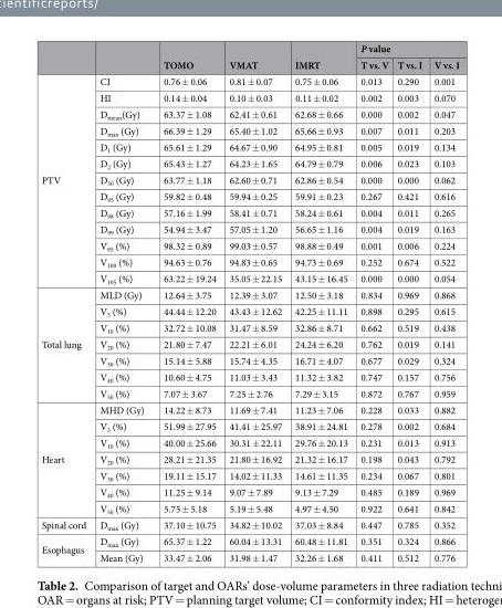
<table><thead><tr><td rowspan="2"></td><td rowspan="2"></td><td rowspan="2">TOMO</td><td rowspan="2">VMAT</td><td rowspan="2">IMRT</td><td colspan="3">P value</td></tr><tr><td>T vs. V</td><td>T vs. I</td><td>V vs. I</td></tr></thead><tbody><tr><td rowspan="13">PTV</td><td>CI</td><td>0.76 ± 0.06</td><td>0.81 ± 0.07</td><td>0.75 ± 0.06</td><td>0.013</td><td>0.290</td><td>0.001</td></tr><tr><td>HI</td><td>0.14 ± 0.04</td><td>0.10 ± 0.03</td><td>0.11 ± 0.02</td><td>0.002</td><td>0.003</td><td>0.070</td></tr><tr><td>D<sub>mean</sub>(Gy)</td><td>63.37 ± 1.08</td><td>62.41 ± 0.61</td><td>62.68 ± 0.66</td><td>0.000</td><td>0.002</td><td>0.047</td></tr><tr><td>D<sub>max</sub> (Gy)</td><td>66.39 ± 1.29</td><td>65.40 ± 1.02</td><td>65.66 ± 0.93</td><td>0.007</td><td>0.011</td><td>0.203</td></tr><tr><td>D<sub>1</sub> (Gy)</td><td>65.61 ± 1.29</td><td>64.67 ± 0.90</td><td>64.95 ± 0.81</td><td>0.005</td><td>0.019</td><td>0.134</td></tr><tr><td>D<sub>2</sub> (Gy)</td><td>65.43 ± 1.27</td><td>64.23 ± 1.65</td><td>64.79 ± 0.79</td><td>0.006</td><td>0.023</td><td>0.103</td></tr><tr><td>D<sub>50</sub> (Gy)</td><td>63.77 ± 1.18</td><td>62.60 ± 0.71</td><td>62.86 ± 0.54</td><td>0.000</td><td>0.000</td><td>0.062</td></tr><tr><td>D<sub>95</sub> (Gy)</td><td>59.82 ± 0.48</td><td>59.94 ± 0.25</td><td>59.91 ± 0.23</td><td>0.267</td><td>0.421</td><td>0.616</td></tr><tr><td>D<sub>98</sub> (Gy)</td><td>57.16 ± 1.99</td><td>58.41 ± 0.71</td><td>58.24 ± 0.61</td><td>0.004</td><td>0.011</td><td>0.265</td></tr><tr><td>D<sub>99</sub> (Gy)</td><td>54.94 ± 3.47</td><td>57.05 ± 1.20</td><td>56.65 ± 1.16</td><td>0.004</td><td>0.019</td><td>0.163</td></tr><tr><td>V<sub>95</sub> (%)</td><td>98.32 ± 0.89</td><td>99.03 ± 0.57</td><td>98.88 ± 0.49</td><td>0.001</td><td>0.006</td><td>0.224</td></tr><tr><td>V<sub>100</sub> (%)</td><td>94.63 ± 0.76</td><td>94.83 ± 0.65</td><td>94.73 ± 0.69</td><td>0.252</td><td>0.674</td><td>0.522</td></tr><tr><td>V<sub>105</sub> (%)</td><td>63.22 ± 19.24</td><td>35.05 ± 22.15</td><td>43.15 ± 16.45</td><td>0.000</td><td>0.000</td><td>0.054</td></tr><tr><td rowspan="7">Total lung</td><td>MLD (Gy)</td><td>12.64 ± 3.75</td><td>12.39 ± 3.07</td><td>12.50 ± 3.18</td><td>0.834</td><td>0.969</td><td>0.868</td></tr><tr><td>V<sub>5</sub> (%)</td><td>44.44 ± 12.20</td><td>43.43 ± 12.62</td><td>42.25 ± 11.11</td><td>0.898</td><td>0.295</td><td>0.615</td></tr><tr><td>V<sub>10</sub> (%)</td><td>32.72 ± 10.08</td><td>31.47 ± 8.59</td><td>32.86 ± 8.71</td><td>0.662</td><td>0.519</td><td>0.438</td></tr><tr><td>V<sub>20</sub> (%)</td><td>21.80 ± 7.47</td><td>22.21 ± 6.01</td><td>24.24 ± 6.20</td><td>0.762</td><td>0.019</td><td>0.141</td></tr><tr><td>V<sub>30</sub> (%)</td><td>15.14 ± 5.88</td><td>15.74 ± 4.35</td><td>16.71 ± 4.07</td><td>0.677</td><td>0.029</td><td>0.324</td></tr><tr><td>V<sub>40</sub> (%)</td><td>10.60 ± 4.75</td><td>11.03 ± 3.43</td><td>11.32 ± 3.82</td><td>0.747</td><td>0.157</td><td>0.756</td></tr><tr><td>V<sub>50</sub> (%)</td><td>7.07 ± 3.67</td><td>7.25 ± 2.76</td><td>7.29 ± 3.15</td><td>0.872</td><td>0.767</td><td>0.959</td></tr><tr><td rowspan="7">Heart</td><td>MHD (Gy)</td><td>14.22 ± 8.73</td><td>11.69 ± 7.41</td><td>11.23 ± 7.06</td><td>0.228</td><td>0.033</td><td>0.882</td></tr><tr><td>V<sub>5</sub> (%)</td><td>51.99 ± 27.95</td><td>41.41 ± 25.97</td><td>38.91 ± 24.81</td><td>0.278</td><td>0.002</td><td>0.684</td></tr><tr><td>V<sub>10</sub> (%)</td><td>40.00 ± 25.66</td><td>30.31 ± 22.11</td><td>29.76 ± 20.13</td><td>0.231</td><td>0.013</td><td>0.913</td></tr><tr><td>V<sub>20</sub> (%)</td><td>28.21 ± 21.35</td><td>21.80 ± 16.92</td><td>21.32 ± 16.17</td><td>0.198</td><td>0.043</td><td>0.792</td></tr><tr><td>V<sub>30</sub> (%)</td><td>19.11 ± 15.17</td><td>14.02 ± 11.33</td><td>14.61 ± 11.35</td><td>0.234</td><td>0.067</td><td>0.801</td></tr><tr><td>V<sub>40</sub> (%)</td><td>11.25 ± 9.14</td><td>9.07 ± 7.89</td><td>9.13 ± 7.29</td><td>0.485</td><td>0.189</td><td>0.969</td></tr><tr><td>V<sub>50</sub> (%)</td><td>5.75 ± 5.18</td><td>5.19 ± 5.48</td><td>4.97 ± 4.50</td><td>0.922</td><td>0.641</td><td>0.842</td></tr><tr><td>Spinal cord</td><td>D<sub>max</sub> (Gy)</td><td>37.10 ± 10.75</td><td>34.82 ± 10.02</td><td>37.03 ± 8.84</td><td>0.447</td><td>0.785</td><td>0.352</td></tr><tr><td rowspan="2">Esophagus</td><td>D<sub>max</sub> (Gy)</td><td>65.37 ± 1.22</td><td>60.04 ± 13.31</td><td>60.48 ± 11.81</td><td>0.351</td><td>0.324</td><td>0.866</td></tr><tr><td>Mean (Gy)</td><td>33.47 ± 2.06</td><td>31.98 ± 1.47</td><td>32.26 ± 1.68</td><td>0.411</td><td>0.512</td><td>0.776</td></tr></tbody></table>